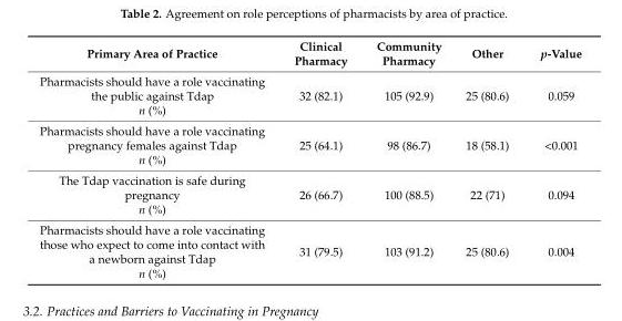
<table><thead><tr><td>Primary Area of Practice</td><td>Clinical Pharmacy</td><td>Community Pharmacy</td><td>Other</td><td>p-Value</td></tr></thead><tbody><tr><td>Pharmacists should have a role vaccinating the public against Tdap n (%)</td><td>32 (82.1)</td><td>105 (92.9)</td><td>25 (80.6)</td><td>0.059</td></tr><tr><td>Pharmacists should have a role vaccinating pregnancy females against Tdap n (%)</td><td>25 (64.1)</td><td>98 (86.7)</td><td>18 (58.1)</td><td>&lt;0.001</td></tr><tr><td>The Tdap vaccination is safe during pregnancy n (%)</td><td>26 (66.7)</td><td>100 (88.5)</td><td>22 (71)</td><td>0.094</td></tr><tr><td>Pharmacists should have a role vaccinating those who expect to come into contact with a newborn against Tdap n (%)</td><td>31 (79.5)</td><td>103 (91.2)</td><td>25 (80.6)</td><td>0.004</td></tr></tbody></table>